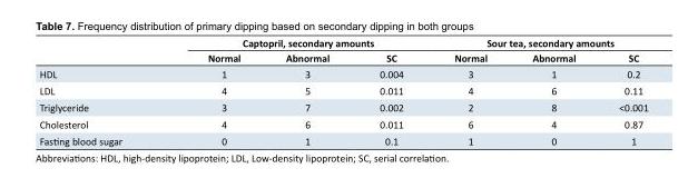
<table><thead><tr><td rowspan="2"></td><td colspan="3">Captopril, secondary amounts</td><td colspan="3">Sour tea, secondary amounts</td></tr><tr><td>Normal</td><td>Abnormal</td><td>SC</td><td>Normal</td><td>Abnormal</td><td>SC</td></tr></thead><tbody><tr><td>HDL</td><td>1</td><td>3</td><td>0.004</td><td>3</td><td>1</td><td>0.2</td></tr><tr><td>LDL</td><td>4</td><td>5</td><td>0.011</td><td>4</td><td>6</td><td>0.11</td></tr><tr><td>Triglyceride</td><td>3</td><td>7</td><td>0.002</td><td>2</td><td>8</td><td>&lt;0.001</td></tr><tr><td>Cholesterol</td><td>4</td><td>6</td><td>0.011</td><td>6</td><td>4</td><td>0.87</td></tr><tr><td>Fasting blood sugar</td><td>0</td><td>1</td><td>0.1</td><td>1</td><td>0</td><td>1</td></tr></tbody></table>